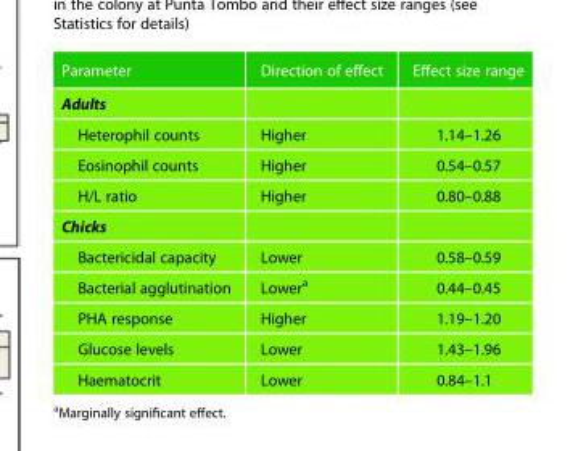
<table><thead><tr><td>Parameter</td><td>Direction of effect</td><td>Effect size range</td></tr></thead><tbody><tr><td colspan="3">Adults</td></tr><tr><td>Heterophil counts</td><td>Higher</td><td>1.14–1.26</td></tr><tr><td>Eosinophil counts</td><td>Higher</td><td>0.54–0.57</td></tr><tr><td>H/L ratio</td><td>Higher</td><td>0.80–0.88</td></tr><tr><td colspan="3">Chicks</td></tr><tr><td>Bactericidal capacity</td><td>Lower</td><td>0.58–0.59</td></tr><tr><td>Bacterial agglutination</td><td>Lower<sup>a</sup></td><td>0.44–0.45</td></tr><tr><td>PHA response</td><td>Higher</td><td>1.19–1.20</td></tr><tr><td>Glucose levels</td><td>Lower</td><td>1.43–1.96</td></tr><tr><td>Haematocrit</td><td>Lower</td><td>0.84–1.1</td></tr></tbody></table>